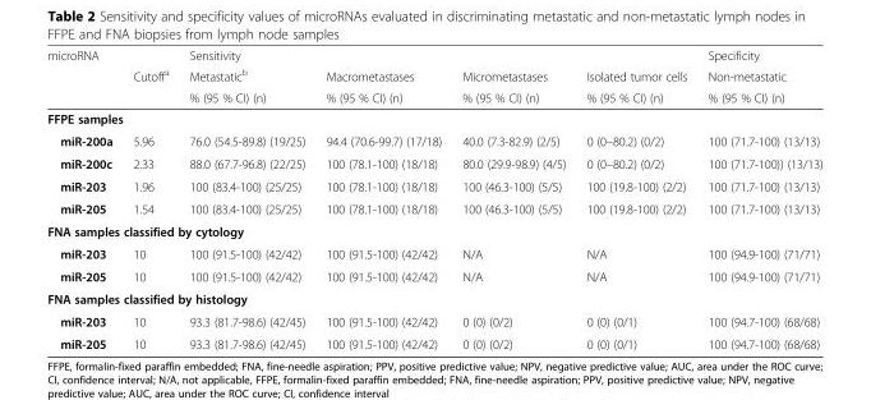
<table><thead><tr><td rowspan="3">microRNA</td><td rowspan="3">Cutoff<sup>a</sup></td><td colspan="3">Sensitivity</td><td rowspan="3">Isolated tumor cells % (95 % CI) (n)</td><td rowspan="3">Specificity Non-metastatic % (95 % CI) (n)</td></tr><tr><td rowspan="2">Metastatic<sup>b</sup> % (95 % CI) (n)</td><td rowspan="2">Macrometastases % (95 % CI) (n)</td><td rowspan="2">Micrometastases % (95 % CI) (n)</td></tr><tr></tr></thead><tbody><tr><td colspan="7">FFPE samples</td></tr><tr><td>miR-200a</td><td>5.96</td><td>76.0 (54.5-89.8) (19/25)</td><td>94.4 (70.6-99.7) (17/18)</td><td>40.0 (7.3-82.9) (2/5)</td><td>0 (0–80.2) (0/2)</td><td>100 (71.7-100) (13/13)</td></tr><tr><td>miR-200c</td><td>2.33</td><td>88.0 (67.7-96.8) (22/25)</td><td>100 (78.1-100) (18/18)</td><td>80.0 (29.9-98.9) (4/5)</td><td>0 (0–80.2) (0/2)</td><td>100 (71.7-100)) (13/13)</td></tr><tr><td>miR-203</td><td>1.96</td><td>100 (83.4-100) (25/25)</td><td>100 (78.1-100) (18/18)</td><td>100 (46.3-100) (5/5)</td><td>100 (19.8-100) (2/2)</td><td>100 (71.7-100) (13/13)</td></tr><tr><td>miR-205</td><td>1.54</td><td>100 (83.4-100) (25/25)</td><td>100 (78.1-100) (18/18)</td><td>100 (46.3-100) (5/5)</td><td>100 (19.8-100) (2/2)</td><td>100 (71.7-100) (13/13)</td></tr><tr><td colspan="7">FNA samples classified by cytology</td></tr><tr><td>miR-203</td><td>10</td><td>100 (91.5-100) (42/42)</td><td>100 (91.5-100) (42/42)</td><td>N/A</td><td>N/A</td><td>100 (94.9-100) (71/71)</td></tr><tr><td>miR-205</td><td>10</td><td>100 (91.5-100) (42/42)</td><td>100 (91.5-100) (42/42)</td><td>N/A</td><td>N/A</td><td>100 (94.9-100) (71/71)</td></tr><tr><td colspan="7">FNA samples classified by histology</td></tr><tr><td>miR-203</td><td>10</td><td>93.3 (81.7-98.6) (42/45)</td><td>100 (91.5-100) (42/42)</td><td>0 (0) (0/2)</td><td>0 (0) (0/1)</td><td>100 (94.7-100) (68/68)</td></tr><tr><td>miR-205</td><td>10</td><td>93.3 (81.7-98.6) (42/45)</td><td>100 (91.5-100) (42/42)</td><td>0 (0) (0/2)</td><td>0 (0) (0/1)</td><td>100 (94.7-100) (68/68)</td></tr></tbody></table>